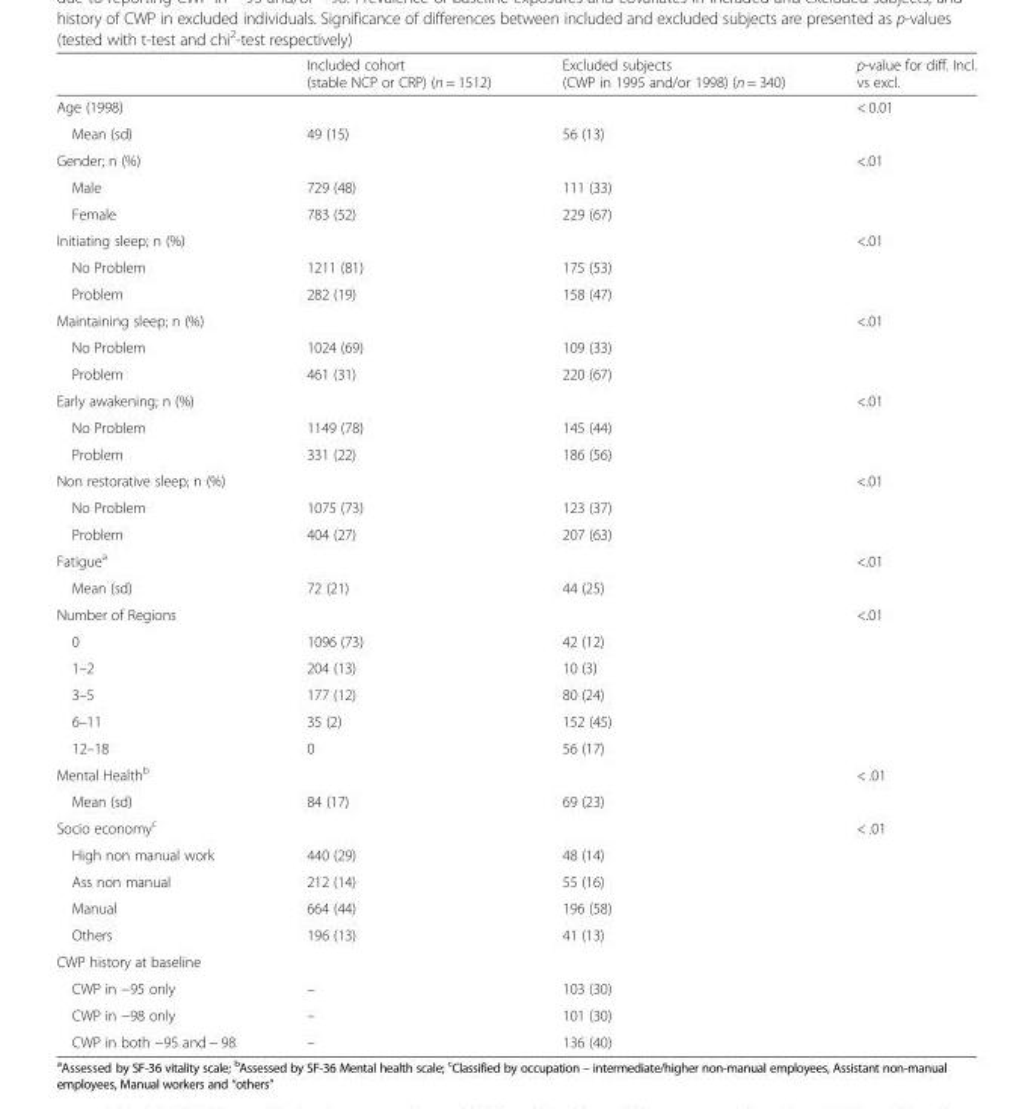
<table><thead><tr><td></td><td>Included cohort (stable NCP or CRP) (n = 1512)</td><td>Excluded subjects (CWP in 1995 and/or 1998) (n = 340)</td><td>p-value for diff. Incl. vs excl.</td></tr></thead><tbody><tr><td>Age (1998)</td><td></td><td></td><td>&lt; 0.01</td></tr><tr><td>Mean (sd)</td><td>49 (15)</td><td>56 (13)</td><td></td></tr><tr><td>Gender; n (%)</td><td></td><td></td><td>&lt;.01</td></tr><tr><td>Male</td><td>729 (48)</td><td>111 (33)</td><td></td></tr><tr><td>Female</td><td>783 (52)</td><td>229 (67)</td><td></td></tr><tr><td>Initiating sleep; n (%)</td><td colspan="2"></td><td>&lt;.01</td></tr><tr><td>No Problem</td><td>1211 (81)</td><td>175 (53)</td><td></td></tr><tr><td>Problem</td><td>282 (19)</td><td>158 (47)</td><td></td></tr><tr><td>Maintaining sleep; n (%)</td><td></td><td></td><td>&lt;.01</td></tr><tr><td>No Problem</td><td>1024 (69)</td><td>109 (33)</td><td></td></tr><tr><td>Problem</td><td>461 (31)</td><td>220 (67)</td><td></td></tr><tr><td>Early awakening; n (%)</td><td></td><td></td><td>&lt;.01</td></tr><tr><td>No Problem</td><td>1149 (78)</td><td>145 (44)</td><td></td></tr><tr><td>Problem</td><td>331 (22)</td><td>186 (56)</td><td></td></tr><tr><td>Non restorative sleep; n (%)</td><td></td><td></td><td>&lt;.01</td></tr><tr><td>No Problem</td><td>1075 (73)</td><td>123 (37)</td><td></td></tr><tr><td>Problem</td><td>404 (27)</td><td>207 (63)</td><td></td></tr><tr><td>Fatigue<sup>a</sup></td><td></td><td></td><td>&lt;.01</td></tr><tr><td>Mean (sd)</td><td>72 (21)</td><td>44 (25)</td><td></td></tr><tr><td>Number of Regions</td><td></td><td></td><td>&lt;.01</td></tr><tr><td>0</td><td>1096 (73)</td><td>42 (12)</td><td></td></tr><tr><td>1–2</td><td>204 (13)</td><td>10 (3)</td><td></td></tr><tr><td>3–5</td><td>177 (12)</td><td>80 (24)</td><td></td></tr><tr><td>6–11</td><td>35 (2)</td><td>152 (45)</td><td></td></tr><tr><td>12–18</td><td>0</td><td>56 (17)</td><td></td></tr><tr><td>Mental Health<sup>b</sup></td><td></td><td></td><td>&lt; .01</td></tr><tr><td>Mean (sd)</td><td>84 (17)</td><td>69 (23)</td><td></td></tr><tr><td>Socio economy<sup>c</sup></td><td></td><td></td><td>&lt; .01</td></tr><tr><td>High non manual work</td><td>440 (29)</td><td>48 (14)</td><td></td></tr><tr><td>Ass non manual</td><td>212 (14)</td><td>55 (16)</td><td></td></tr><tr><td>Manual</td><td>664 (44)</td><td>196 (58)</td><td></td></tr><tr><td>Others</td><td>196 (13)</td><td>41 (13)</td><td></td></tr><tr><td colspan="4">CWP history at baseline</td></tr><tr><td>CWP in −95 only</td><td>–</td><td>103 (30)</td><td></td></tr><tr><td>CWP in −98 only</td><td>–</td><td>101 (30)</td><td></td></tr><tr><td>CWP in both −95 and − 98</td><td>–</td><td>136 (40)</td><td></td></tr></tbody></table>